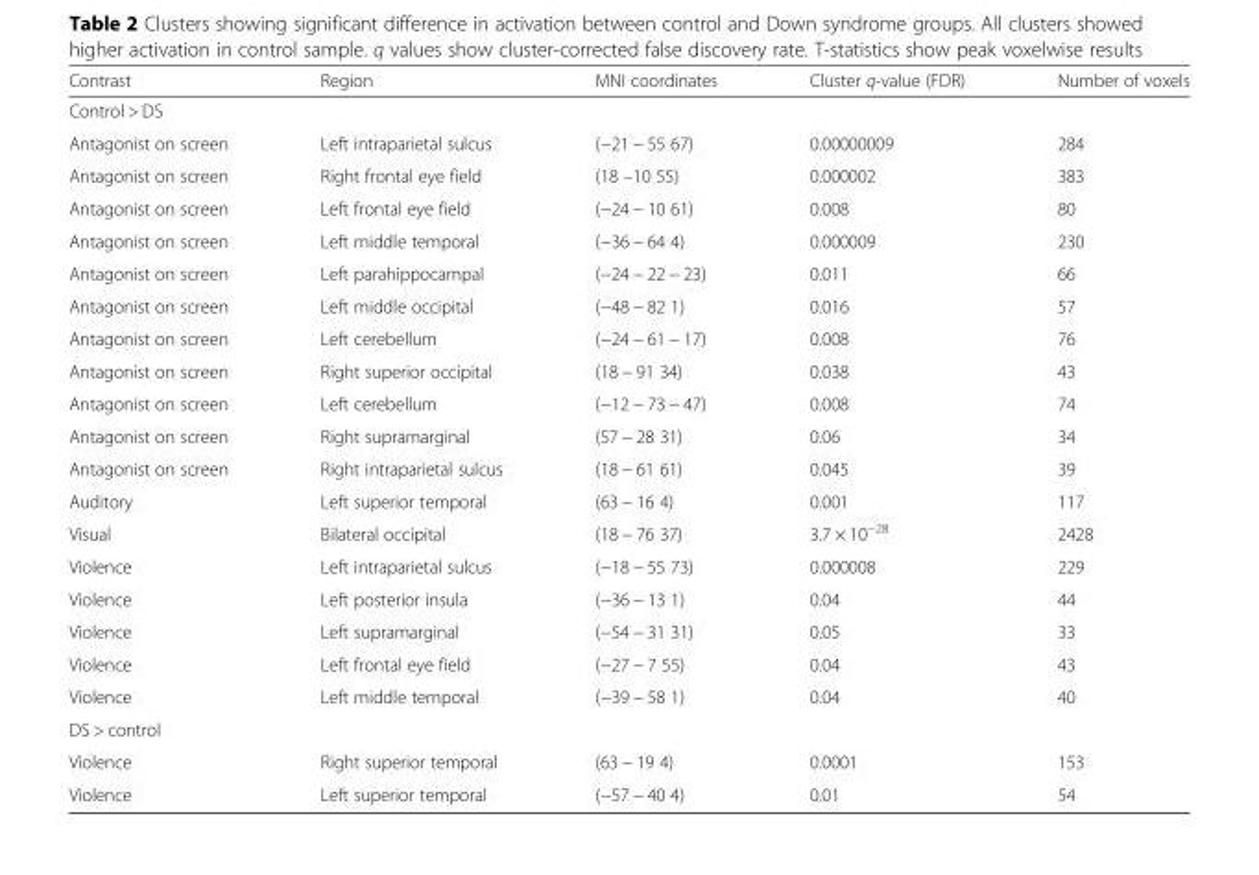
<table><thead><tr><td>Contrast</td><td>Region</td><td>MNI coordinates</td><td>Cluster q-value (FDR)</td><td>Number of voxels</td></tr></thead><tbody><tr><td colspan="5">Control &gt; DS</td></tr><tr><td>Antagonist on screen</td><td>Left intraparietal sulcus</td><td>(−21 − 55 67)</td><td>0.00000009</td><td>284</td></tr><tr><td>Antagonist on screen</td><td>Right frontal eye field</td><td>(18 –10 55)</td><td>0.000002</td><td>383</td></tr><tr><td>Antagonist on screen</td><td>Left frontal eye field</td><td>(−24 − 10 61)</td><td>0.008</td><td>80</td></tr><tr><td>Antagonist on screen</td><td>Left middle temporal</td><td>(−36 − 64 4)</td><td>0.000009</td><td>230</td></tr><tr><td>Antagonist on screen</td><td>Left parahippocampal</td><td>(−24 − 22 − 23)</td><td>0.011</td><td>66</td></tr><tr><td>Antagonist on screen</td><td>Left middle occipital</td><td>(−48 − 82 1)</td><td>0.016</td><td>57</td></tr><tr><td>Antagonist on screen</td><td>Left cerebellum</td><td>(−24 − 61 − 17)</td><td>0.008</td><td>76</td></tr><tr><td>Antagonist on screen</td><td>Right superior occipital</td><td>(18 − 91 34)</td><td>0.038</td><td>43</td></tr><tr><td>Antagonist on screen</td><td>Left cerebellum</td><td>(−12 − 73 − 47)</td><td>0.008</td><td>74</td></tr><tr><td>Antagonist on screen</td><td>Right supramarginal</td><td>(57 − 28 31)</td><td>0.06</td><td>34</td></tr><tr><td>Antagonist on screen</td><td>Right intraparietal sulcus</td><td>(18 − 61 61)</td><td>0.045</td><td>39</td></tr><tr><td>Auditory</td><td>Left superior temporal</td><td>(63 − 16 4)</td><td>0.001</td><td>117</td></tr><tr><td>Visual</td><td>Bilateral occipital</td><td>(18 − 76 37)</td><td>3.7 × 10<sup>−28</sup></td><td>2428</td></tr><tr><td>Violence</td><td>Left intraparietal sulcus</td><td>(−18 − 55 73)</td><td>0.000008</td><td>229</td></tr><tr><td>Violence</td><td>Left posterior insula</td><td>(−36 − 13 1)</td><td>0.04</td><td>44</td></tr><tr><td>Violence</td><td>Left supramarginal</td><td>(−54 − 31 31)</td><td>0.05</td><td>33</td></tr><tr><td>Violence</td><td>Left frontal eye field</td><td>(−27 − 7 55)</td><td>0.04</td><td>43</td></tr><tr><td>Violence</td><td>Left middle temporal</td><td>(−39 − 58 1)</td><td>0.04</td><td>40</td></tr><tr><td colspan="5">DS &gt; control</td></tr><tr><td>Violence</td><td>Right superior temporal</td><td>(63 − 19 4)</td><td>0.0001</td><td>153</td></tr><tr><td>Violence</td><td>Left superior temporal</td><td>(−57 − 40 4)</td><td>0.01</td><td>54</td></tr></tbody></table>